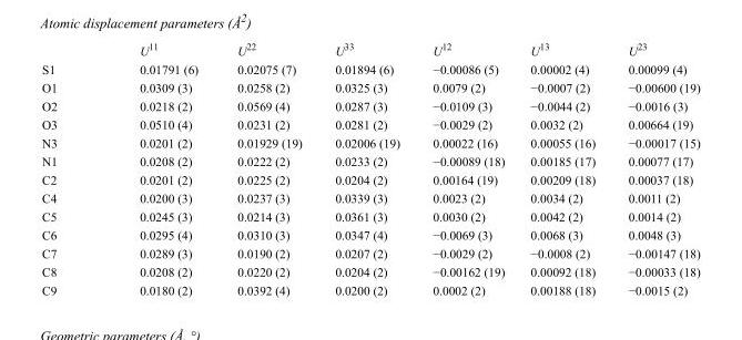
<table><thead><tr><td></td><td>U<sup>11</sup></td><td>U<sup>22</sup></td><td>U<sup>33</sup></td><td>U<sup>12</sup></td><td>U<sup>13</sup></td><td>U<sup>23</sup></td></tr></thead><tbody><tr><td>S1</td><td>0.01791 (6)</td><td>0.02075 (7)</td><td>0.01894 (6)</td><td>−0.00086 (5)</td><td>0.00002 (4)</td><td>0.00099 (4)</td></tr><tr><td>O1</td><td>0.0309 (3)</td><td>0.0258 (2)</td><td>0.0325 (3)</td><td>0.0079 (2)</td><td>−0.0007 (2)</td><td>−0.00600 (19)</td></tr><tr><td>O2</td><td>0.0218 (2)</td><td>0.0569 (4)</td><td>0.0287 (3)</td><td>−0.0109 (3)</td><td>−0.0044 (2)</td><td>−0.0016 (3)</td></tr><tr><td>O3</td><td>0.0510 (4)</td><td>0.0231 (2)</td><td>0.0281 (2)</td><td>−0.0029 (2)</td><td>0.0032 (2)</td><td>0.00664 (19)</td></tr><tr><td>N3</td><td>0.0201 (2)</td><td>0.01929 (19)</td><td>0.02006 (19)</td><td>0.00022 (16)</td><td>0.00055 (16)</td><td>−0.00017 (15)</td></tr><tr><td>N1</td><td>0.0208 (2)</td><td>0.0222 (2)</td><td>0.0233 (2)</td><td>−0.00089 (18)</td><td>0.00185 (17)</td><td>0.00077 (17)</td></tr><tr><td>C2</td><td>0.0201 (2)</td><td>0.0225 (2)</td><td>0.0204 (2)</td><td>0.00164 (19)</td><td>0.00209 (18)</td><td>0.00037 (18)</td></tr><tr><td>C4</td><td>0.0200 (3)</td><td>0.0237 (3)</td><td>0.0339 (3)</td><td>0.0023 (2)</td><td>0.0034 (2)</td><td>0.0011 (2)</td></tr><tr><td>C5</td><td>0.0245 (3)</td><td>0.0214 (3)</td><td>0.0361 (3)</td><td>0.0030 (2)</td><td>0.0042 (2)</td><td>0.0014 (2)</td></tr><tr><td>C6</td><td>0.0295 (4)</td><td>0.0310 (3)</td><td>0.0347 (4)</td><td>−0.0069 (3)</td><td>0.0068 (3)</td><td>0.0048 (3)</td></tr><tr><td>C7</td><td>0.0289 (3)</td><td>0.0190 (2)</td><td>0.0207 (2)</td><td>−0.0029 (2)</td><td>−0.0008 (2)</td><td>−0.00147 (18)</td></tr><tr><td>C8</td><td>0.0208 (2)</td><td>0.0220 (2)</td><td>0.0204 (2)</td><td>−0.00162 (19)</td><td>0.00092 (18)</td><td>−0.00033 (18)</td></tr><tr><td>C9</td><td>0.0180 (2)</td><td>0.0392 (4)</td><td>0.0200 (2)</td><td>0.0002 (2)</td><td>0.00188 (18)</td><td>−0.0015 (2)</td></tr></tbody></table>